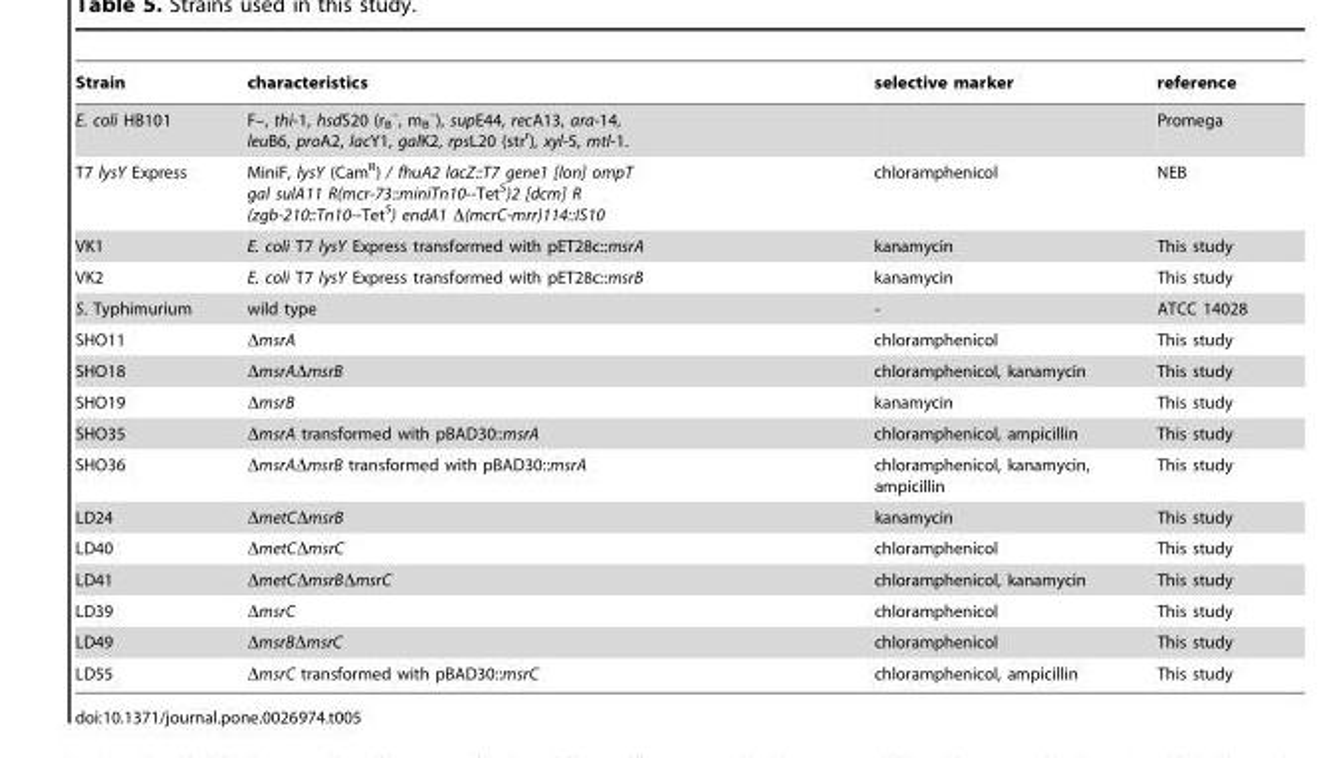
<table><thead><tr><td>Strain</td><td>characteristics</td><td>selective marker</td><td>reference</td></tr></thead><tbody><tr><td>E. coli HB101</td><td>F–, thi-1, hsdS20 (r<sub>B</sub> <sup>–</sup>, m<sub>B</sub> <sup>–</sup>), supE44, recA13, ara-14, leuB6, proA2, lacY1, galK2, rpsL20 (str<sup>r</sup>), xyl-5, mtl-1.</td><td></td><td>Promega</td></tr><tr><td>T7 lysY Express</td><td>MiniF, lysY (Cam<sup>R</sup>) / fhuA2 lacZ::T7 gene1 [lon] ompT gal sulA11 R(mcr-73::miniTn10--Tet<sup>S</sup>)2 [dcm] R (zgb-210::Tn10--Tet<sup>S</sup>) endA1 Δ(mcrC-mrr)114::IS10</td><td>chloramphenicol</td><td>NEB</td></tr><tr><td>VK1</td><td>E. coli T7 lysY Express transformed with pET28c::msrA</td><td>kanamycin</td><td>This study</td></tr><tr><td>VK2</td><td>E. coli T7 lysY Express transformed with pET28c::msrB</td><td>kanamycin</td><td>This study</td></tr><tr><td>S. Typhimurium</td><td>wild type</td><td>-</td><td>ATCC 14028</td></tr><tr><td>SHO11</td><td>ΔmsrA</td><td>chloramphenicol</td><td>This study</td></tr><tr><td>SHO18</td><td>ΔmsrAΔmsrB</td><td>chloramphenicol, kanamycin</td><td>This study</td></tr><tr><td>SHO19</td><td>ΔmsrB</td><td>kanamycin</td><td>This study</td></tr><tr><td>SHO35</td><td>ΔmsrA transformed with pBAD30::msrA</td><td>chloramphenicol, ampicillin</td><td>This study</td></tr><tr><td>SHO36</td><td>ΔmsrAΔmsrB transformed with pBAD30::msrA</td><td>chloramphenicol, kanamycin, ampicillin</td><td>This study</td></tr><tr><td>LD24</td><td>ΔmetCΔmsrB</td><td>kanamycin</td><td>This study</td></tr><tr><td>LD40</td><td>ΔmetCΔmsrC</td><td>chloramphenicol</td><td>This study</td></tr><tr><td>LD41</td><td>ΔmetCΔmsrBΔmsrC</td><td>chloramphenicol, kanamycin</td><td>This study</td></tr><tr><td>LD39</td><td>ΔmsrC</td><td>chloramphenicol</td><td>This study</td></tr><tr><td>LD49</td><td>ΔmsrBΔmsrC</td><td>chloramphenicol</td><td>This study</td></tr><tr><td>LD55</td><td>ΔmsrC transformed with pBAD30::msrC</td><td>chloramphenicol, ampicillin</td><td>This study</td></tr></tbody></table>